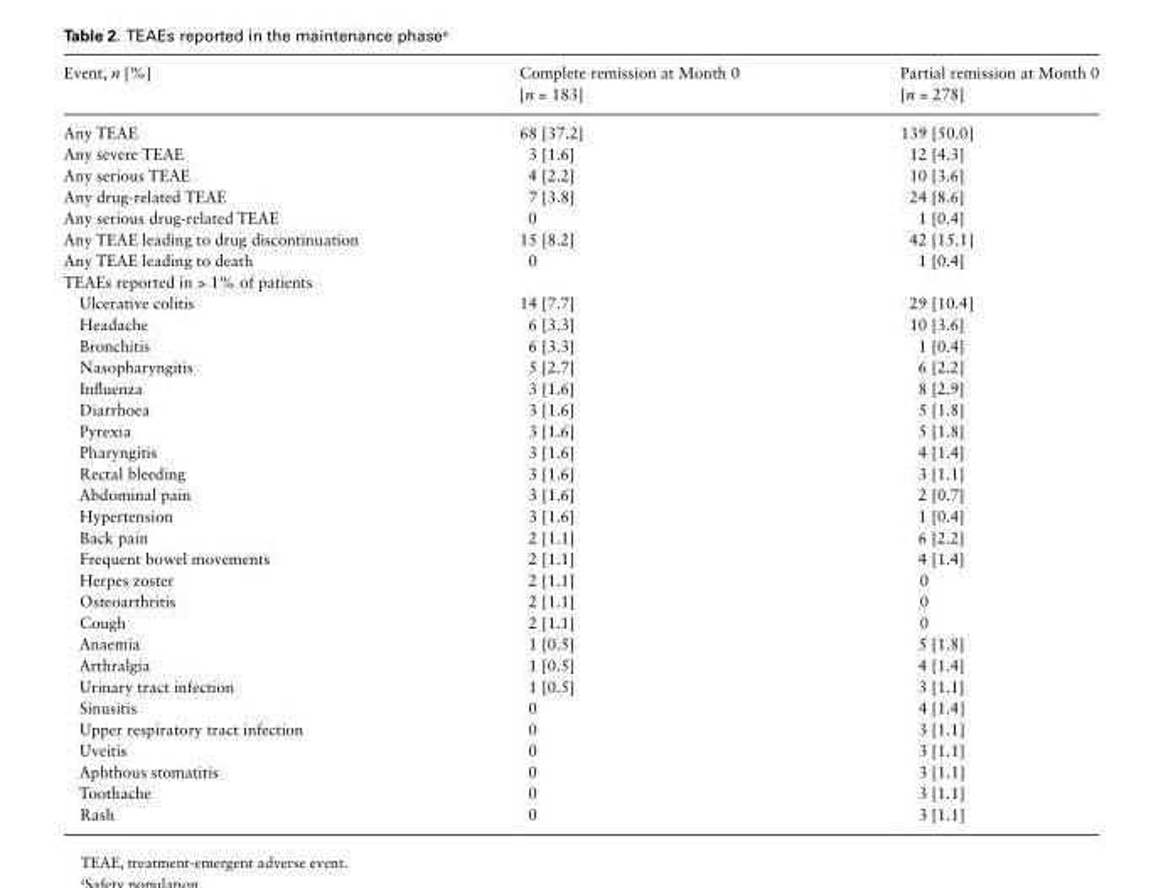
<table><thead><tr><td>Event, n [%]</td><td>Complete remission at Month 0 [n = 183]</td><td>Partial remission at Month 0 [n = 278]</td></tr></thead><tbody><tr><td>Any TEAE</td><td>68 [37.2]</td><td>139 [50.0]</td></tr><tr><td>Any severe TEAE</td><td>3 [1.6]</td><td>12 [4.3]</td></tr><tr><td>Any serious TEAE</td><td>4 [2.2]</td><td>10 [3.6]</td></tr><tr><td>Any drug-related TEAE</td><td>7 [3.8]</td><td>24 [8.6]</td></tr><tr><td>Any serious drug-related TEAE</td><td>0</td><td>1 [0.4]</td></tr><tr><td>Any TEAE leading to drug discontinuation</td><td>15 [8.2]</td><td>42 [15.1]</td></tr><tr><td>Any TEAE leading to death</td><td>0</td><td>1 [0.4]</td></tr><tr><td colspan="3">TEAEs reported in &gt; 1% of patients</td></tr><tr><td>Ulcerative colitis</td><td>14 [7.7]</td><td>29 [10.4]</td></tr><tr><td>Headache</td><td>6 [3.3]</td><td>10 [3.6]</td></tr><tr><td>Bronchitis</td><td>6 [3.3]</td><td>1 [0.4]</td></tr><tr><td>Nasopharyngitis</td><td>5 [2.7]</td><td>6 [2.2]</td></tr><tr><td>Influenza</td><td>3 [1.6]</td><td>8 [2.9]</td></tr><tr><td>Diarrhoea</td><td>3 [1.6]</td><td>5 [1.8]</td></tr><tr><td>Pyrexia</td><td>3 [1.6]</td><td>5 [1.8]</td></tr><tr><td>Pharyngitis</td><td>3 [1.6]</td><td>4 [1.4]</td></tr><tr><td>Rectal bleeding</td><td>3 [1.6]</td><td>3 [1.1]</td></tr><tr><td>Abdominal pain</td><td>3 [1.6]</td><td>2 [0.7]</td></tr><tr><td>Hypertension</td><td>3 [1.6]</td><td>1 [0.4]</td></tr><tr><td>Back pain</td><td>2 [1.1]</td><td>6 [2.2]</td></tr><tr><td>Frequent bowel movements</td><td>2 [1.1]</td><td>4 [1.4]</td></tr><tr><td>Herpes zoster</td><td>2 [1.1]</td><td>0</td></tr><tr><td>Osteoarthritis</td><td>2 [1.1]</td><td>0</td></tr><tr><td>Cough</td><td>2 [1.1]</td><td>0</td></tr><tr><td>Anaemia</td><td>1 [0.5]</td><td>5 [1.8]</td></tr><tr><td>Arthralgia</td><td>1 [0.5]</td><td>4 [1.4]</td></tr><tr><td>Urinary tract infection</td><td>1 [0.5]</td><td>3 [1.1]</td></tr><tr><td>Sinusitis</td><td>0</td><td>4 [1.4]</td></tr><tr><td>Upper respiratory tract infection</td><td>0</td><td>3 [1.1]</td></tr><tr><td>Uveitis</td><td>0</td><td>3 [1.1]</td></tr><tr><td>Aphthous stomatitis</td><td>0</td><td>3 [1.1]</td></tr><tr><td>Toothache</td><td>0</td><td>3 [1.1]</td></tr><tr><td>Rash</td><td>0</td><td>3 [1.1]</td></tr></tbody></table>